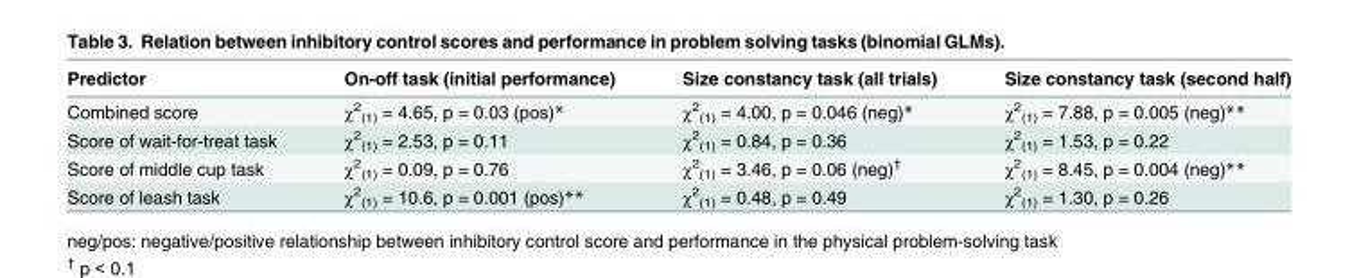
<table><thead><tr><td>Predictor</td><td>On-off task (initial performance)</td><td>Size constancy task (all trials)</td><td>Size constancy task (second half)</td></tr></thead><tbody><tr><td>Combined score</td><td>χ<sup>2</sup> <sub>(1)</sub> = 4.65, p = 0.03 (pos)*</td><td>χ<sup>2</sup> <sub>(1)</sub> = 4.00, p = 0.046 (neg)*</td><td>χ<sup>2</sup> <sub>(1)</sub> = 7.88, p = 0.005 (neg)**</td></tr><tr><td>Score of wait-for-treat task</td><td>χ<sup>2</sup> <sub>(1)</sub> = 2.53, p = 0.11</td><td>χ<sup>2</sup> <sub>(1)</sub> = 0.84, p = 0.36</td><td>χ<sup>2</sup> <sub>(1)</sub> = 1.53, p = 0.22</td></tr><tr><td>Score of middle cup task</td><td>χ<sup>2</sup> <sub>(1)</sub> = 0.09, p = 0.76</td><td>χ<sup>2</sup> <sub>(1)</sub> = 3.46, p = 0.06 (neg)<sup>†</sup></td><td>χ<sup>2</sup> <sub>(1)</sub> = 8.45, p = 0.004 (neg)**</td></tr><tr><td>Score of leash task</td><td>χ<sup>2</sup> <sub>(1)</sub> = 10.6, p = 0.001 (pos)**</td><td>χ<sup>2</sup> <sub>(1)</sub> = 0.48, p = 0.49</td><td>χ<sup>2</sup> <sub>(1)</sub> = 1.30, p = 0.26</td></tr></tbody></table>